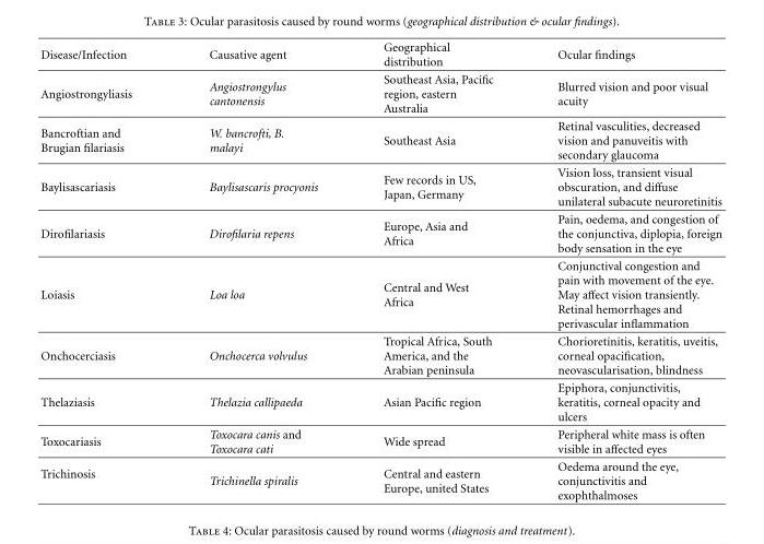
<table><thead><tr><td>Disease/Infection</td><td>Causative agent</td><td>Geographical distribution</td><td>Ocular findings</td></tr></thead><tbody><tr><td>Angiostrongyliasis</td><td>Angiostrongylus cantonensis</td><td>Southeast Asia, Pacific region, eastern Australia</td><td>Blurred vision and poor visual acuity</td></tr><tr><td>Bancroftian and Brugian filariasis</td><td>W. bancrofti, B. malayi</td><td>Southeast Asia</td><td>Retinal vasculities, decreased vision and panuveitis with secondary glaucoma</td></tr><tr><td>Baylisascariasis</td><td>Baylisascaris procyonis</td><td>Few records in US, Japan, Germany</td><td>Vision loss, transient visual obscuration, and diffuse unilateral subacute neuroretinitis</td></tr><tr><td>Dirofilariasis</td><td>Dirofilaria repens</td><td>Europe, Asia and Africa</td><td>Pain, oedema, and congestion of the conjunctiva, diplopia, foreign body sensation in the eye</td></tr><tr><td>Loiasis</td><td>Loa loa</td><td>Central and West Africa</td><td>Conjunctival congestion and pain with movement of the eye. May affect vision transiently. Retinal hemorrhages and perivascular inflammation</td></tr><tr><td>Onchocerciasis</td><td>Onchocerca volvulus</td><td>Tropical Africa, South America, and the Arabian peninsula</td><td>Chorioretinitis, keratitis, uveitis, corneal opacification, neovascularisation, blindness</td></tr><tr><td>Thelaziasis</td><td>Thelazia callipaeda</td><td>Asian Pacific region</td><td>Epiphora, conjunctivitis, keratitis, corneal opacity and ulcers</td></tr><tr><td>Toxocariasis</td><td>Toxocara canis and Toxocara cati</td><td>Wide spread</td><td>Peripheral white mass is often visible in affected eyes</td></tr><tr><td>Trichinosis</td><td>Trichinella spiralis</td><td>Central and eastern Europe, united States</td><td>Oedema around the eye, conjunctivitis and exophthalmoses</td></tr></tbody></table>